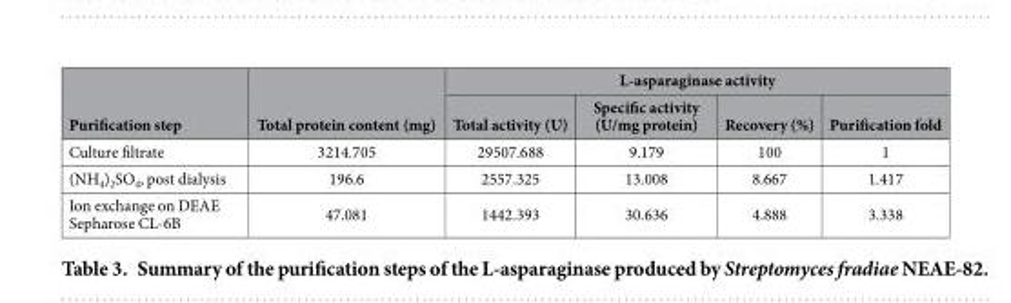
<table><thead><tr><td rowspan="2">Purification step</td><td rowspan="2">Total protein content (mg)</td><td colspan="4">L-asparaginase activity</td></tr><tr><td>Total activity (U)</td><td>Specific activity (U/mg protein)</td><td>Recovery (%)</td><td>Purification fold</td></tr></thead><tbody><tr><td>Culture filtrate</td><td>3214.705</td><td>29507.688</td><td>9.179</td><td>100</td><td>1</td></tr><tr><td>(NH<sub>4</sub>)<sub>2</sub>SO<sub>4</sub>, post dialysis</td><td>196.6</td><td>2557.325</td><td>13.008</td><td>8.667</td><td>1.417</td></tr><tr><td>Ion exchange on DEAE Sepharose CL-6B</td><td>47.081</td><td>1442.393</td><td>30.636</td><td>4.888</td><td>3.338</td></tr></tbody></table>